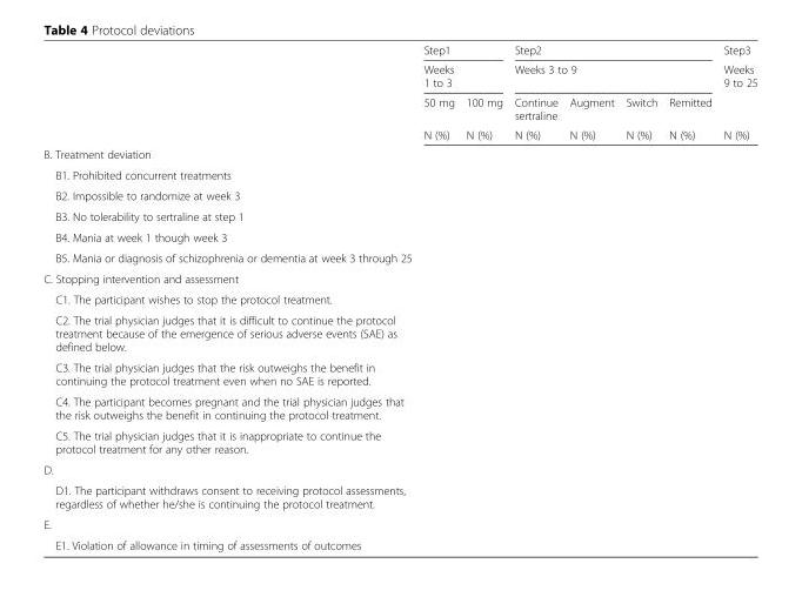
<table><thead><tr><td rowspan="4"></td><td rowspan="2" colspan="2">Step1 Weeks 1 to 3</td><td rowspan="2" colspan="4">Step2 Weeks 3 to 9</td><td rowspan="4">Step3 Weeks 9 to 25 N (%)</td></tr><tr></tr><tr><td rowspan="2">50 mg N (%)</td><td rowspan="2">100 mg N (%)</td><td rowspan="2">Continue sertraline N (%)</td><td rowspan="2">Augment N (%)</td><td rowspan="2">Switch N (%)</td><td rowspan="2">Remitted N (%)</td></tr><tr></tr></thead><tbody><tr><td colspan="8">B. Treatment deviation</td></tr><tr><td colspan="8">B1. Prohibited concurrent treatments</td></tr><tr><td colspan="8">B2. Impossible to randomize at week 3</td></tr><tr><td colspan="8">B3. No tolerability to sertraline at step 1</td></tr><tr><td colspan="8">B4. Mania at week 1 though week 3</td></tr><tr><td colspan="8">B5. Mania or diagnosis of schizophrenia or dementia at week 3 through 25</td></tr><tr><td colspan="8">C. Stopping intervention and assessment</td></tr><tr><td colspan="8">C1. The participant wishes to stop the protocol treatment.</td></tr><tr><td colspan="8">C2. The trial physician judges that it is difficult to continue the protocol treatment because of the emergence of serious adverse events (SAE) as defined below.</td></tr><tr><td colspan="8">C3. The trial physician judges that the risk outweighs the benefit in continuing the protocol treatment even when no SAE is reported.</td></tr><tr><td colspan="8">C4. The participant becomes pregnant and the trial physician judges that the risk outweighs the benefit in continuing the protocol treatment.</td></tr><tr><td colspan="8">C5. The trial physician judges that it is inappropriate to continue the protocol treatment for any other reason.</td></tr><tr><td colspan="8">D.</td></tr><tr><td colspan="8">D1. The participant withdraws consent to receiving protocol assessments, regardless of whether he/she is continuing the protocol treatment.</td></tr><tr><td colspan="8">E.</td></tr><tr><td>E1. Violation of allowance in timing of assessments of outcomes</td><td></td><td></td><td></td><td></td><td></td><td></td><td></td></tr></tbody></table>